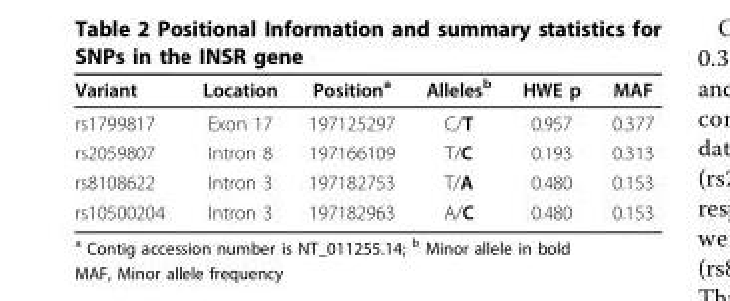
<table><thead><tr><td>Variant</td><td>Location</td><td>Position<sup>a</sup></td><td>Alleles<sup>b</sup></td><td>HWE p</td><td>MAF</td></tr></thead><tbody><tr><td>rs1799817</td><td>Exon 17</td><td>197125297</td><td>C/T</td><td>0.957</td><td>0.377</td></tr><tr><td>rs2059807</td><td>Intron 8</td><td>197166109</td><td>T/C</td><td>0.193</td><td>0.313</td></tr><tr><td>rs8108622</td><td>Intron 3</td><td>197182753</td><td>T/A</td><td>0.480</td><td>0.153</td></tr><tr><td>rs10500204</td><td>Intron 3</td><td>197182963</td><td>A/C</td><td>0.480</td><td>0.153</td></tr></tbody></table>